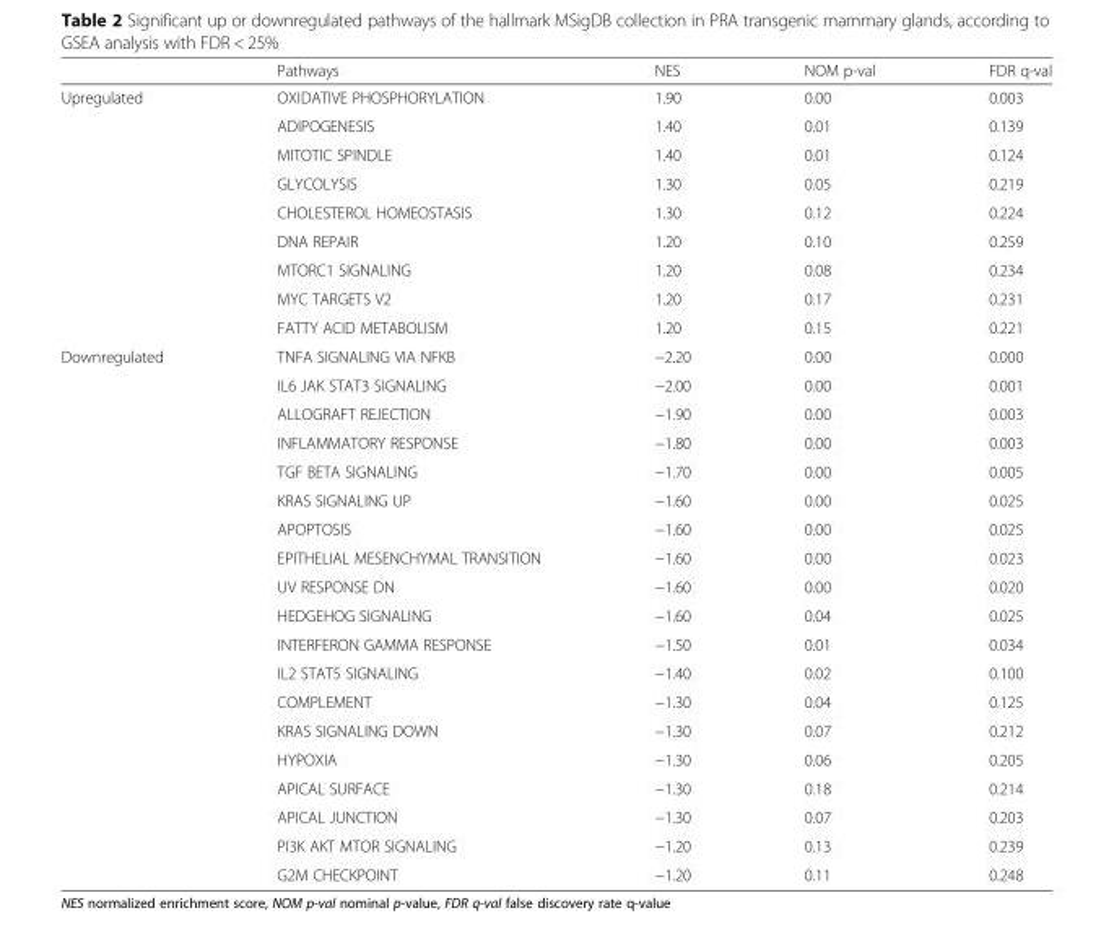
<table><thead><tr><td></td><td>Pathways</td><td>NES</td><td>NOM p-val</td><td>FDR q-val</td></tr></thead><tbody><tr><td rowspan="9">Upregulated</td><td>OXIDATIVE PHOSPHORYLATION</td><td>1.90</td><td>0.00</td><td>0.003</td></tr><tr><td>ADIPOGENESIS</td><td>1.40</td><td>0.01</td><td>0.139</td></tr><tr><td>MITOTIC SPINDLE</td><td>1.40</td><td>0.01</td><td>0.124</td></tr><tr><td>GLYCOLYSIS</td><td>1.30</td><td>0.05</td><td>0.219</td></tr><tr><td>CHOLESTEROL HOMEOSTASIS</td><td>1.30</td><td>0.12</td><td>0.224</td></tr><tr><td>DNA REPAIR</td><td>1.20</td><td>0.10</td><td>0.259</td></tr><tr><td>MTORC1 SIGNALING</td><td>1.20</td><td>0.08</td><td>0.234</td></tr><tr><td>MYC TARGETS V2</td><td>1.20</td><td>0.17</td><td>0.231</td></tr><tr><td>FATTY ACID METABOLISM</td><td>1.20</td><td>0.15</td><td>0.221</td></tr><tr><td rowspan="19">Downregulated</td><td>TNFA SIGNALING VIA NFKB</td><td>−2.20</td><td>0.00</td><td>0.000</td></tr><tr><td>IL6 JAK STAT3 SIGNALING</td><td>−2.00</td><td>0.00</td><td>0.001</td></tr><tr><td>ALLOGRAFT REJECTION</td><td>−1.90</td><td>0.00</td><td>0.003</td></tr><tr><td>INFLAMMATORY RESPONSE</td><td>−1.80</td><td>0.00</td><td>0.003</td></tr><tr><td>TGF BETA SIGNALING</td><td>−1.70</td><td>0.00</td><td>0.005</td></tr><tr><td>KRAS SIGNALING UP</td><td>−1.60</td><td>0.00</td><td>0.025</td></tr><tr><td>APOPTOSIS</td><td>−1.60</td><td>0.00</td><td>0.025</td></tr><tr><td>EPITHELIAL MESENCHYMAL TRANSITION</td><td>−1.60</td><td>0.00</td><td>0.023</td></tr><tr><td>UV RESPONSE DN</td><td>−1.60</td><td>0.00</td><td>0.020</td></tr><tr><td>HEDGEHOG SIGNALING</td><td>−1.60</td><td>0.04</td><td>0.025</td></tr><tr><td>INTERFERON GAMMA RESPONSE</td><td>−1.50</td><td>0.01</td><td>0.034</td></tr><tr><td>IL2 STAT5 SIGNALING</td><td>−1.40</td><td>0.02</td><td>0.100</td></tr><tr><td>COMPLEMENT</td><td>−1.30</td><td>0.04</td><td>0.125</td></tr><tr><td>KRAS SIGNALING DOWN</td><td>−1.30</td><td>0.07</td><td>0.212</td></tr><tr><td>HYPOXIA</td><td>−1.30</td><td>0.06</td><td>0.205</td></tr><tr><td>APICAL SURFACE</td><td>−1.30</td><td>0.18</td><td>0.214</td></tr><tr><td>APICAL JUNCTION</td><td>−1.30</td><td>0.07</td><td>0.203</td></tr><tr><td>PI3K AKT MTOR SIGNALING</td><td>−1.20</td><td>0.13</td><td>0.239</td></tr><tr><td>G2M CHECKPOINT</td><td>−1.20</td><td>0.11</td><td>0.248</td></tr></tbody></table>